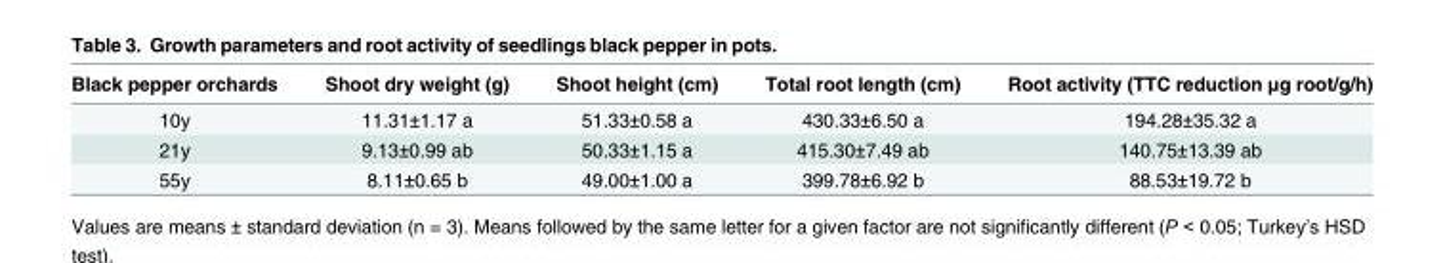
<table><thead><tr><td>Black pepper orchards</td><td>Shoot dry weight (g)</td><td>Shoot height (cm)</td><td>Total root length (cm)</td><td>Root activity (TTC reduction μg root/g/h)</td></tr></thead><tbody><tr><td>10y</td><td>11.31±1.17 a</td><td>51.33±0.58 a</td><td>430.33±6.50 a</td><td>194.28±35.32 a</td></tr><tr><td>21y</td><td>9.13±0.99 ab</td><td>50.33±1.15 a</td><td>415.30±7.49 ab</td><td>140.75±13.39 ab</td></tr><tr><td>55y</td><td>8.11±0.65 b</td><td>49.00±1.00 a</td><td>399.78±6.92 b</td><td>88.53±19.72 b</td></tr></tbody></table>